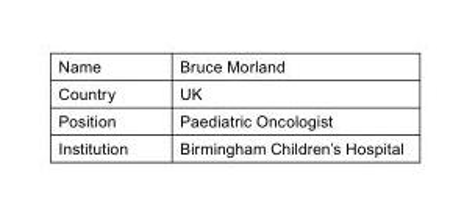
<table><tbody><tr><td>Name</td><td>Bruce Morland</td></tr><tr><td>Country</td><td>UK</td></tr><tr><td>Position</td><td>Paediatric Oncologist</td></tr><tr><td>Institution</td><td>Birmingham Children’s Hospital</td></tr></tbody></table>